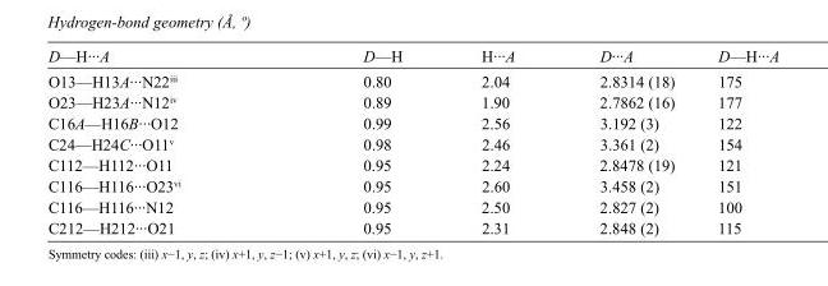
<table><tbody><tr><td>D—H···A</td><td>D—H</td><td>H···A</td><td>D···A</td><td>D—H···A</td></tr><tr><td>O13—H13A···N22<sup>iii</sup></td><td>0.80</td><td>2.04</td><td>2.8314 (18)</td><td>175</td></tr><tr><td>O23—H23A···N12<sup>iv</sup></td><td>0.89</td><td>1.90</td><td>2.7862 (16)</td><td>177</td></tr><tr><td>C16A—H16B···O12</td><td>0.99</td><td>2.56</td><td>3.192 (3)</td><td>122</td></tr><tr><td>C24—H24C···O11<sup>v</sup></td><td>0.98</td><td>2.46</td><td>3.361 (2)</td><td>154</td></tr><tr><td>C112—H112···O11</td><td>0.95</td><td>2.24</td><td>2.8478 (19)</td><td>121</td></tr><tr><td>C116—H116···O23<sup>vi</sup></td><td>0.95</td><td>2.60</td><td>3.458 (2)</td><td>151</td></tr><tr><td>C116—H116···N12</td><td>0.95</td><td>2.50</td><td>2.827 (2)</td><td>100</td></tr><tr><td>C212—H212···O21</td><td>0.95</td><td>2.31</td><td>2.848 (2)</td><td>115</td></tr></tbody></table>